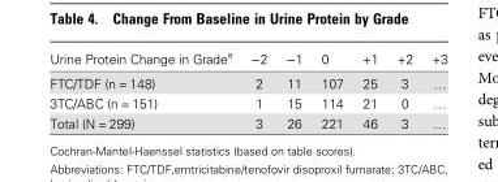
<table><thead><tr><td>Urine Protein Change in Grade<sup>a</sup></td><td>−2</td><td>−1</td><td>0</td><td>+1</td><td>+2</td><td>+3</td></tr></thead><tbody><tr><td>FTC/TDF (n = 148)</td><td>2</td><td>11</td><td>107</td><td>25</td><td>3</td><td>…</td></tr><tr><td>3TC/ABC (n = 151)</td><td>1</td><td>15</td><td>114</td><td>21</td><td>0</td><td>…</td></tr><tr><td>Total (N = 299)</td><td>3</td><td>26</td><td>221</td><td>46</td><td>3</td><td>…</td></tr></tbody></table>